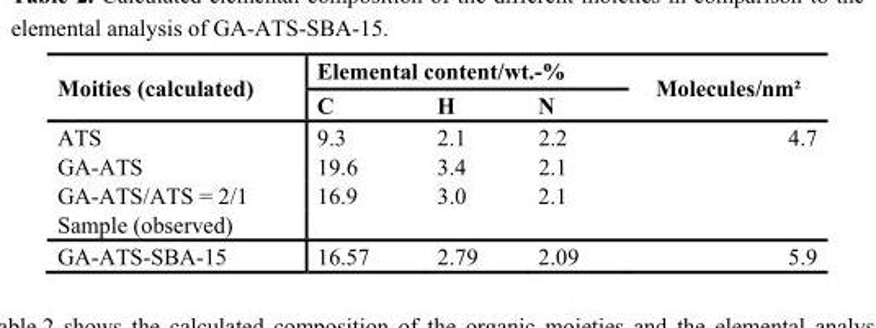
<table><thead><tr><td rowspan="2">Moities (calculated)</td><td colspan="3">Elemental content/wt.-%</td><td rowspan="2">Molecules/nm²</td></tr><tr><td>C</td><td>H</td><td>N</td></tr></thead><tbody><tr><td>ATS</td><td>9.3</td><td>2.1</td><td>2.2</td><td>4.7</td></tr><tr><td>GA-ATS</td><td>19.6</td><td>3.4</td><td>2.1</td><td></td></tr><tr><td>GA-ATS/ATS = 2/1</td><td>16.9</td><td>3.0</td><td>2.1</td><td></td></tr><tr><td colspan="5">Sample (observed)</td></tr><tr><td>GA-ATS-SBA-15</td><td>16.57</td><td>2.79</td><td>2.09</td><td>5.9</td></tr></tbody></table>